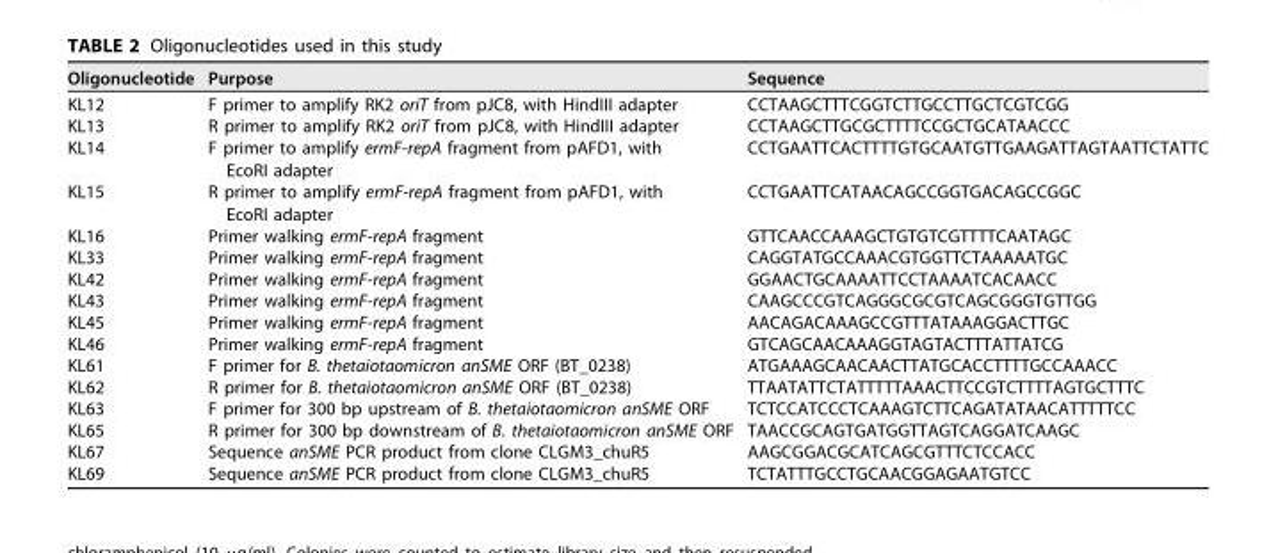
<table><thead><tr><td>Oligonucleotide</td><td>Purpose</td><td>Sequence</td></tr></thead><tbody><tr><td>KL12</td><td>F primer to amplify RK2 oriT from pJC8, with HindIII adapter</td><td>CCTAAGCTTTCGGTCTTGCCTTGCTCGTCGG</td></tr><tr><td>KL13</td><td>R primer to amplify RK2 oriT from pJC8, with HindIII adapter</td><td>CCTAAGCTTGCGCTTTTCCGCTGCATAACCC</td></tr><tr><td>KL14</td><td>F primer to amplify ermF-repA fragment from pAFD1, with EcoRI adapter</td><td>CCTGAATTCACTTTTGTGCAATGTTGAAGATTAGTAATTCTATTC</td></tr><tr><td>KL15</td><td>R primer to amplify ermF-repA fragment from pAFD1, with EcoRI adapter</td><td>CCTGAATTCATAACAGCCGGTGACAGCCGGC</td></tr><tr><td>KL16</td><td>Primer walking ermF-repA fragment</td><td>GTTCAACCAAAGCTGTGTCGTTTTCAATAGC</td></tr><tr><td>KL33</td><td>Primer walking ermF-repA fragment</td><td>CAGGTATGCCAAACGTGGTTCTAAAAATGC</td></tr><tr><td>KL42</td><td>Primer walking ermF-repA fragment</td><td>GGAACTGCAAAATTCCTAAAATCACAACC</td></tr><tr><td>KL43</td><td>Primer walking ermF-repA fragment</td><td>CAAGCCCGTCAGGGCGCGTCAGCGGGTGTTGG</td></tr><tr><td>KL45</td><td>Primer walking ermF-repA fragment</td><td>AACAGACAAAGCCGTTTATAAAGGACTTGC</td></tr><tr><td>KL46</td><td>Primer walking ermF-repA fragment</td><td>GTCAGCAACAAAGGTAGTACTTTATTATCG</td></tr><tr><td>KL61</td><td>F primer for B. thetaiotaomicron anSME ORF (BT_0238)</td><td>ATGAAAGCAACAACTTATGCACCTTTTGCCAAACC</td></tr><tr><td>KL62</td><td>R primer for B. thetaiotaomicron anSME ORF (BT_0238)</td><td>TTAATATTCTATTTTTAAACTTCCGTCTTTTAGTGCTTTC</td></tr><tr><td>KL63</td><td>F primer for 300 bp upstream of B. thetaiotaomicron anSME ORF</td><td>TCTCCATCCCTCAAAGTCTTCAGATATAACATTTTTCC</td></tr><tr><td>KL65</td><td>R primer for 300 bp downstream of B. thetaiotaomicron anSME ORF</td><td>TAACCGCAGTGATGGTTAGTCAGGATCAAGC</td></tr><tr><td>KL67</td><td>Sequence anSME PCR product from clone CLGM3_chuR5</td><td>AAGCGGACGCATCAGCGTTTCTCCACC</td></tr><tr><td>KL69</td><td>Sequence anSME PCR product from clone CLGM3_chuR5</td><td>TCTATTTGCCTGCAACGGAGAATGTCC</td></tr></tbody></table>